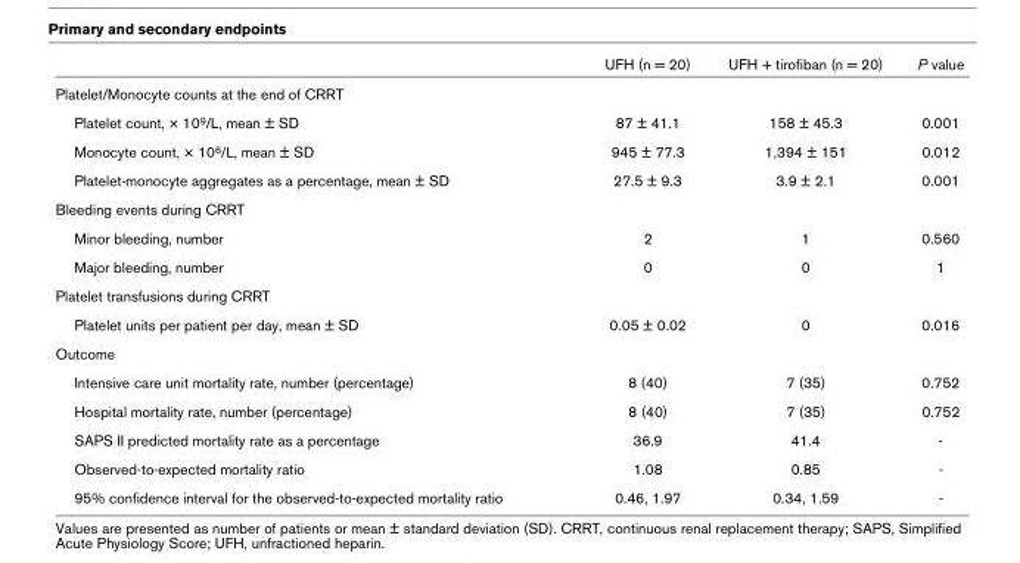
<table><thead><tr><td></td><td>UFH (n = 20)</td><td>UFH + tirofiban (n = 20)</td><td>P value</td></tr></thead><tbody><tr><td colspan="4">Platelet/Monocyte counts at the end of CRRT</td></tr><tr><td>Platelet count, × 10<sup>9</sup>/L, mean ± SD</td><td>87 ± 41.1</td><td>158 ± 45.3</td><td>0.001</td></tr><tr><td>Monocyte count, × 10<sup>6</sup>/L, mean ± SD</td><td>945 ± 77.3</td><td>1,394 ± 151</td><td>0.012</td></tr><tr><td>Platelet-monocyte aggregates as a percentage, mean ± SD</td><td>27.5 ± 9.3</td><td>3.9 ± 2.1</td><td>0.001</td></tr><tr><td colspan="4">Bleeding events during CRRT</td></tr><tr><td>Minor bleeding, number</td><td>2</td><td>1</td><td>0.560</td></tr><tr><td>Major bleeding, number</td><td>0</td><td>0</td><td>1</td></tr><tr><td colspan="4">Platelet transfusions during CRRT</td></tr><tr><td>Platelet units per patient per day, mean ± SD</td><td>0.05 ± 0.02</td><td>0</td><td>0.016</td></tr><tr><td colspan="4">Outcome</td></tr><tr><td>Intensive care unit mortality rate, number (percentage)</td><td>8 (40)</td><td>7 (35)</td><td>0.752</td></tr><tr><td>Hospital mortality rate, number (percentage)</td><td>8 (40)</td><td>7 (35)</td><td>0.752</td></tr><tr><td>SAPS II predicted mortality rate as a percentage</td><td>36.9</td><td>41.4</td><td>-</td></tr><tr><td>Observed-to-expected mortality ratio</td><td>1.08</td><td>0.85</td><td>-</td></tr><tr><td>95% confidence interval for the observed-to-expected mortality ratio</td><td>0.46, 1.97</td><td>0.34, 1.59</td><td>-</td></tr></tbody></table>